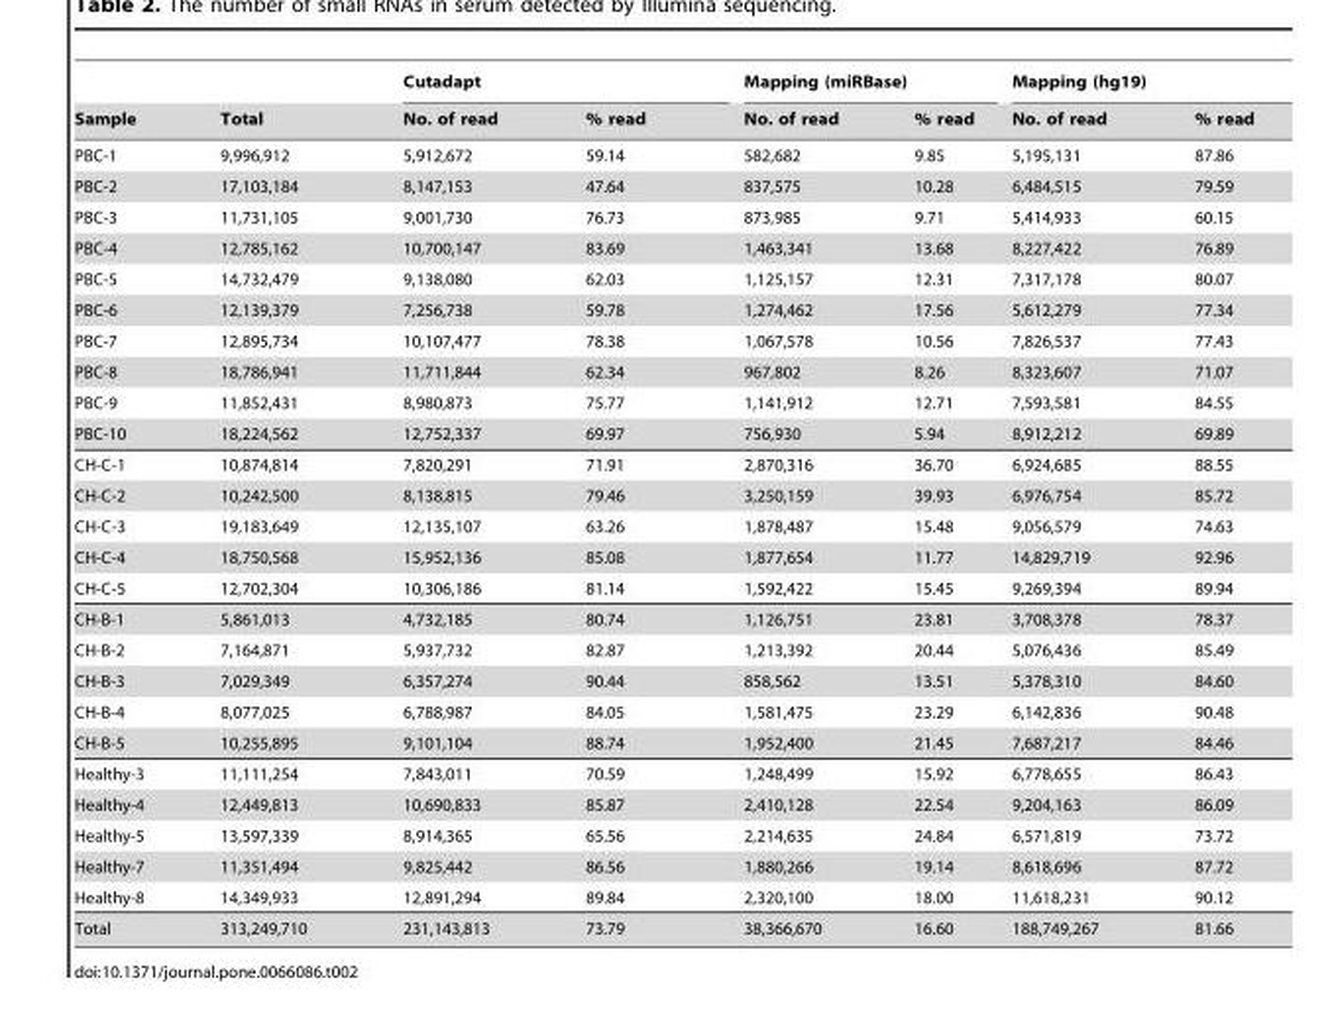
<table><thead><tr><td rowspan="2">Sample</td><td rowspan="2">Total</td><td colspan="2">Cutadapt</td><td colspan="2">Mapping (miRBase)</td><td colspan="2">Mapping (hg19)</td></tr><tr><td>No. of read</td><td>% read</td><td>No. of read</td><td>% read</td><td>No. of read</td><td>% read</td></tr></thead><tbody><tr><td>PBC-1</td><td>9,996,912</td><td>5,912,672</td><td>59.14</td><td>582,682</td><td>9.85</td><td>5,195,131</td><td>87.86</td></tr><tr><td>PBC-2</td><td>17,103,184</td><td>8,147,153</td><td>47.64</td><td>837,575</td><td>10.28</td><td>6,484,515</td><td>79.59</td></tr><tr><td>PBC-3</td><td>11,731,105</td><td>9,001,730</td><td>76.73</td><td>873,985</td><td>9.71</td><td>5,414,933</td><td>60.15</td></tr><tr><td>PBC-4</td><td>12,785,162</td><td>10,700,147</td><td>83.69</td><td>1,463,341</td><td>13.68</td><td>8,227,422</td><td>76.89</td></tr><tr><td>PBC-5</td><td>14,732,479</td><td>9,138,080</td><td>62.03</td><td>1,125,157</td><td>12.31</td><td>7,317,178</td><td>80.07</td></tr><tr><td>PBC-6</td><td>12,139,379</td><td>7,256,738</td><td>59.78</td><td>1,274,462</td><td>17.56</td><td>5,612,279</td><td>77.34</td></tr><tr><td>PBC-7</td><td>12,895,734</td><td>10,107,477</td><td>78.38</td><td>1,067,578</td><td>10.56</td><td>7,826,537</td><td>77.43</td></tr><tr><td>PBC-8</td><td>18,786,941</td><td>11,711,844</td><td>62.34</td><td>967,802</td><td>8.26</td><td>8,323,607</td><td>71.07</td></tr><tr><td>PBC-9</td><td>11,852,431</td><td>8,980,873</td><td>75.77</td><td>1,141,912</td><td>12.71</td><td>7,593,581</td><td>84.55</td></tr><tr><td>PBC-10</td><td>18,224,562</td><td>12,752,337</td><td>69.97</td><td>756,930</td><td>5.94</td><td>8,912,212</td><td>69.89</td></tr><tr><td>CH-C-1</td><td>10,874,814</td><td>7,820,291</td><td>71.91</td><td>2,870,316</td><td>36.70</td><td>6,924,685</td><td>88.55</td></tr><tr><td>CH-C-2</td><td>10,242,500</td><td>8,138,815</td><td>79.46</td><td>3,250,159</td><td>39.93</td><td>6,976,754</td><td>85.72</td></tr><tr><td>CH-C-3</td><td>19,183,649</td><td>12,135,107</td><td>63.26</td><td>1,878,487</td><td>15.48</td><td>9,056,579</td><td>74.63</td></tr><tr><td>CH-C-4</td><td>18,750,568</td><td>15,952,136</td><td>85.08</td><td>1,877,654</td><td>11.77</td><td>14,829,719</td><td>92.96</td></tr><tr><td>CH-C-5</td><td>12,702,304</td><td>10,306,186</td><td>81.14</td><td>1,592,422</td><td>15.45</td><td>9,269,394</td><td>89.94</td></tr><tr><td>CH-B-1</td><td>5,861,013</td><td>4,732,185</td><td>80.74</td><td>1,126,751</td><td>23.81</td><td>3,708,378</td><td>78.37</td></tr><tr><td>CH-B-2</td><td>7,164,871</td><td>5,937,732</td><td>82.87</td><td>1,213,392</td><td>20.44</td><td>5,076,436</td><td>85.49</td></tr><tr><td>CH-B-3</td><td>7,029,349</td><td>6,357,274</td><td>90.44</td><td>858,562</td><td>13.51</td><td>5,378,310</td><td>84.60</td></tr><tr><td>CH-B-4</td><td>8,077,025</td><td>6,788,987</td><td>84.05</td><td>1,581,475</td><td>23.29</td><td>6,142,836</td><td>90.48</td></tr><tr><td>CH-B-5</td><td>10,255,895</td><td>9,101,104</td><td>88.74</td><td>1,952,400</td><td>21.45</td><td>7,687,217</td><td>84.46</td></tr><tr><td>Healthy-3</td><td>11,111,254</td><td>7,843,011</td><td>70.59</td><td>1,248,499</td><td>15.92</td><td>6,778,655</td><td>86.43</td></tr><tr><td>Healthy-4</td><td>12,449,813</td><td>10,690,833</td><td>85.87</td><td>2,410,128</td><td>22.54</td><td>9,204,163</td><td>86.09</td></tr><tr><td>Healthy-5</td><td>13,597,339</td><td>8,914,365</td><td>65.56</td><td>2,214,635</td><td>24.84</td><td>6,571,819</td><td>73.72</td></tr><tr><td>Healthy-7</td><td>11,351,494</td><td>9,825,442</td><td>86.56</td><td>1,880,266</td><td>19.14</td><td>8,618,696</td><td>87.72</td></tr><tr><td>Healthy-8</td><td>14,349,933</td><td>12,891,294</td><td>89.84</td><td>2,320,100</td><td>18.00</td><td>11,618,231</td><td>90.12</td></tr><tr><td>Total</td><td>313,249,710</td><td>231,143,813</td><td>73.79</td><td>38,366,670</td><td>16.60</td><td>188,749,267</td><td>81.66</td></tr></tbody></table>